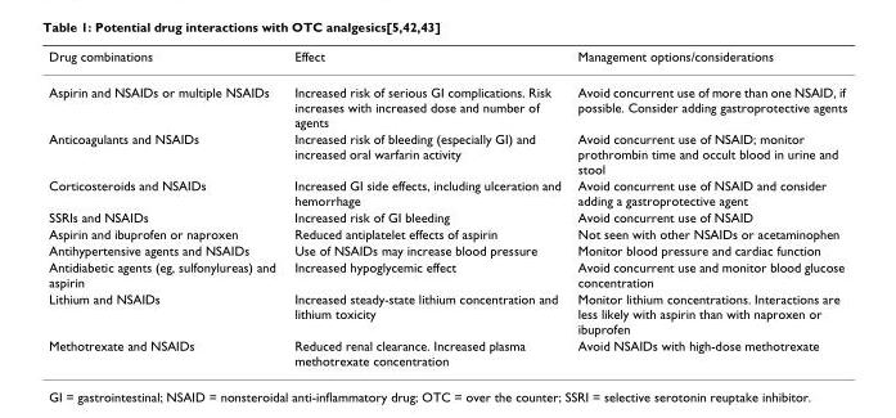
<table><thead><tr><td>Drug combinations</td><td>Effect</td><td>Management options/considerations</td></tr></thead><tbody><tr><td>Aspirin and NSAIDs or multiple NSAIDs</td><td>Increased risk of serious GI complications. Risk increases with increased dose and number of agents</td><td>Avoid concurrent use of more than one NSAID, if possible. Consider adding gastroprotective agents</td></tr><tr><td>Anticoagulants and NSAIDs</td><td>Increased risk of bleeding (especially GI) and increased oral warfarin activity</td><td>Avoid concurrent use of NSAID; monitor prothrombin time and occult blood in urine and stool</td></tr><tr><td>Corticosteroids and NSAIDs</td><td>Increased GI side effects, including ulceration and hemorrhage</td><td>Avoid concurrent use of NSAID and consider adding a gastroprotective agent</td></tr><tr><td>SSRIs and NSAIDs</td><td>Increased risk of GI bleeding</td><td>Avoid concurrent use of NSAID</td></tr><tr><td>Aspirin and ibuprofen or naproxen</td><td>Reduced antiplatelet effects of aspirin</td><td>Not seen with other NSAIDs or acetaminophen</td></tr><tr><td>Antihypertensive agents and NSAIDs</td><td>Use of NSAIDs may increase blood pressure</td><td>Monitor blood pressure and cardiac function</td></tr><tr><td>Antidiabetic agents (eg, sulfonylureas) and aspirin</td><td>Increased hypoglycemic effect</td><td>Avoid concurrent use and monitor blood glucose concentration</td></tr><tr><td>Lithium and NSAIDs</td><td>Increased steady-state lithium concentration and lithium toxicity</td><td>Monitor lithium concentrations. Interactions are less likely with aspirin than with naproxen or ibuprofen</td></tr><tr><td>Methotrexate and NSAIDs</td><td>Reduced renal clearance. Increased plasma methotrexate concentration</td><td>Avoid NSAIDs with high-dose methotrexate</td></tr></tbody></table>